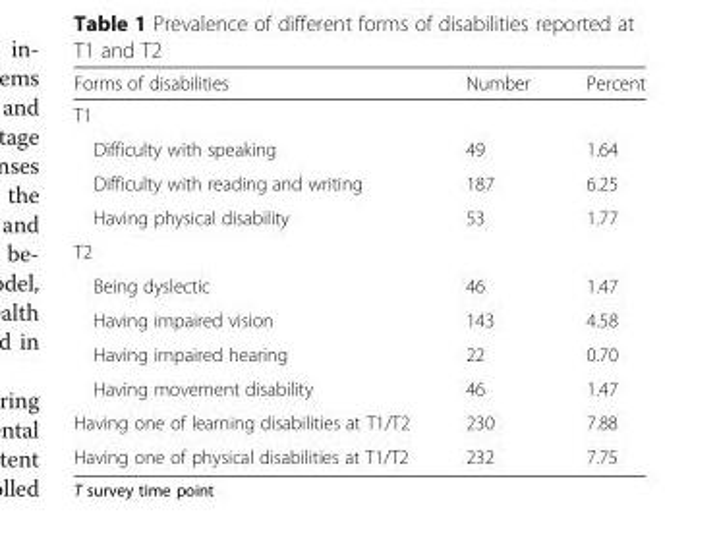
<table><thead><tr><td>Forms of disabilities</td><td>Number</td><td>Percent</td></tr></thead><tbody><tr><td colspan="3">T1</td></tr><tr><td>Difficulty with speaking</td><td>49</td><td>1.64</td></tr><tr><td>Difficulty with reading and writing</td><td>187</td><td>6.25</td></tr><tr><td>Having physical disability</td><td>53</td><td>1.77</td></tr><tr><td colspan="3">T2</td></tr><tr><td>Being dyslectic</td><td>46</td><td>1.47</td></tr><tr><td>Having impaired vision</td><td>143</td><td>4.58</td></tr><tr><td>Having impaired hearing</td><td>22</td><td>0.70</td></tr><tr><td>Having movement disability</td><td>46</td><td>1.47</td></tr><tr><td>Having one of learning disabilities at T1/T2</td><td>230</td><td>7.88</td></tr><tr><td>Having one of physical disabilities at T1/T2</td><td>232</td><td>7.75</td></tr></tbody></table>